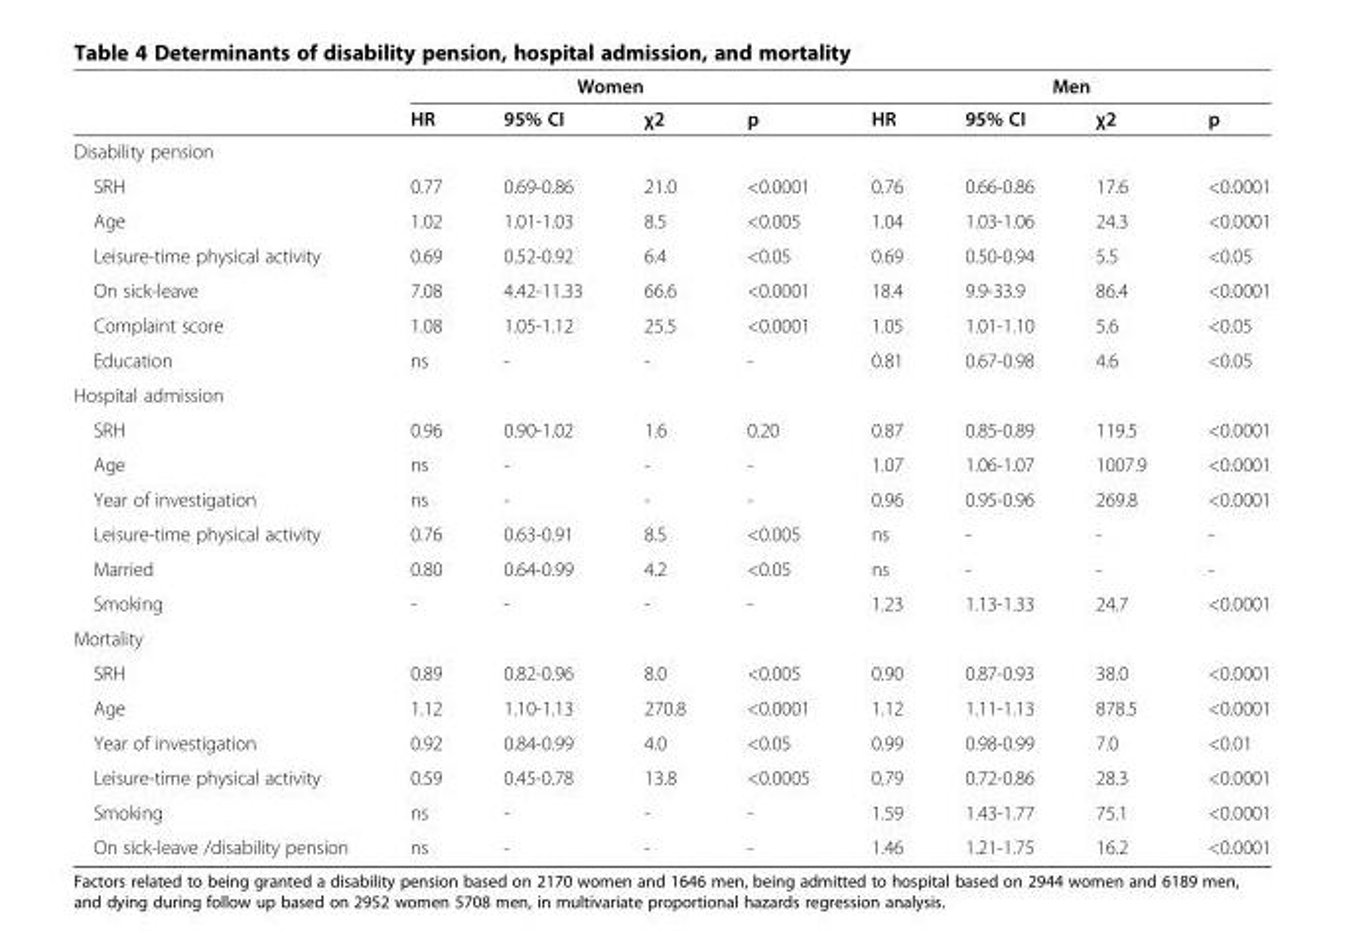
<table><thead><tr><td rowspan="2"></td><td colspan="4">Women</td><td colspan="4">Men</td></tr><tr><td>HR</td><td>95% CI</td><td>χ2</td><td>p</td><td>HR</td><td>95% CI</td><td>χ2</td><td>p</td></tr></thead><tbody><tr><td colspan="9">Disability pension</td></tr><tr><td>SRH</td><td>0.77</td><td>0.69-0.86</td><td>21.0</td><td>&lt;0.0001</td><td>0.76</td><td>0.66-0.86</td><td>17.6</td><td>&lt;0.0001</td></tr><tr><td>Age</td><td>1.02</td><td>1.01-1.03</td><td>8.5</td><td>&lt;0.005</td><td>1.04</td><td>1.03-1.06</td><td>24.3</td><td>&lt;0.0001</td></tr><tr><td>Leisure-time physical activity</td><td>0.69</td><td>0.52-0.92</td><td>6.4</td><td>&lt;0.05</td><td>0.69</td><td>0.50-0.94</td><td>5.5</td><td>&lt;0.05</td></tr><tr><td>On sick-leave</td><td>7.08</td><td>4.42-11.33</td><td>66.6</td><td>&lt;0.0001</td><td>18.4</td><td>9.9-33.9</td><td>86.4</td><td>&lt;0.0001</td></tr><tr><td>Complaint score</td><td>1.08</td><td>1.05-1.12</td><td>25.5</td><td>&lt;0.0001</td><td>1.05</td><td>1.01-1.10</td><td>5.6</td><td>&lt;0.05</td></tr><tr><td>Education</td><td>ns</td><td>-</td><td>-</td><td>-</td><td>0.81</td><td>0.67-0.98</td><td>4.6</td><td>&lt;0.05</td></tr><tr><td colspan="9">Hospital admission</td></tr><tr><td>SRH</td><td>0.96</td><td>0.90-1.02</td><td>1.6</td><td>0.20</td><td>0.87</td><td>0.85-0.89</td><td>119.5</td><td>&lt;0.0001</td></tr><tr><td>Age</td><td>ns</td><td>-</td><td>-</td><td>-</td><td>1.07</td><td>1.06-1.07</td><td>1007.9</td><td>&lt;0.0001</td></tr><tr><td>Year of investigation</td><td>ns</td><td>-</td><td>-</td><td>-</td><td>0.96</td><td>0.95-0.96</td><td>269.8</td><td>&lt;0.0001</td></tr><tr><td>Leisure-time physical activity</td><td>0.76</td><td>0.63-0.91</td><td>8.5</td><td>&lt;0.005</td><td>ns</td><td>-</td><td>-</td><td>-</td></tr><tr><td>Married</td><td>0.80</td><td>0.64-0.99</td><td>4.2</td><td>&lt;0.05</td><td>ns</td><td>-</td><td>-</td><td>-</td></tr><tr><td>Smoking</td><td>-</td><td>-</td><td>-</td><td>-</td><td>1.23</td><td>1.13-1.33</td><td>24.7</td><td>&lt;0.0001</td></tr><tr><td colspan="9">Mortality</td></tr><tr><td>SRH</td><td>0.89</td><td>0.82-0.96</td><td>8.0</td><td>&lt;0.005</td><td>0.90</td><td>0.87-0.93</td><td>38.0</td><td>&lt;0.0001</td></tr><tr><td>Age</td><td>1.12</td><td>1.10-1.13</td><td>270.8</td><td>&lt;0.0001</td><td>1.12</td><td>1.11-1.13</td><td>878.5</td><td>&lt;0.0001</td></tr><tr><td>Year of investigation</td><td>0.92</td><td>0.84-0.99</td><td>4.0</td><td>&lt;0.05</td><td>0.99</td><td>0.98-0.99</td><td>7.0</td><td>&lt;0.01</td></tr><tr><td>Leisure-time physical activity</td><td>0.59</td><td>0.45-0.78</td><td>13.8</td><td>&lt;0.0005</td><td>0.79</td><td>0.72-0.86</td><td>28.3</td><td>&lt;0.0001</td></tr><tr><td>Smoking</td><td>ns</td><td>-</td><td>-</td><td>-</td><td>1.59</td><td>1.43-1.77</td><td>75.1</td><td>&lt;0.0001</td></tr><tr><td>On sick-leave /disability pension</td><td>ns</td><td>-</td><td>-</td><td>-</td><td>1.46</td><td>1.21-1.75</td><td>16.2</td><td>&lt;0.0001</td></tr></tbody></table>